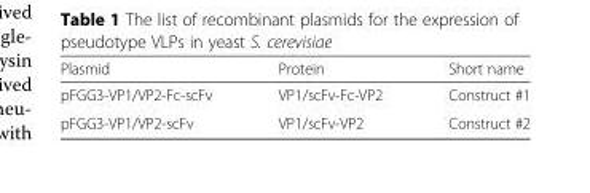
<table><thead><tr><td>Plasmid</td><td>Protein</td><td>Short name</td></tr></thead><tbody><tr><td>pFGG3-VP1/VP2-Fc-scFv</td><td>VP1/scFv-Fc-VP2</td><td>Construct #1</td></tr><tr><td>pFGG3-VP1/VP2-scFv</td><td>VP1/scFv-VP2</td><td>Construct #2</td></tr></tbody></table>